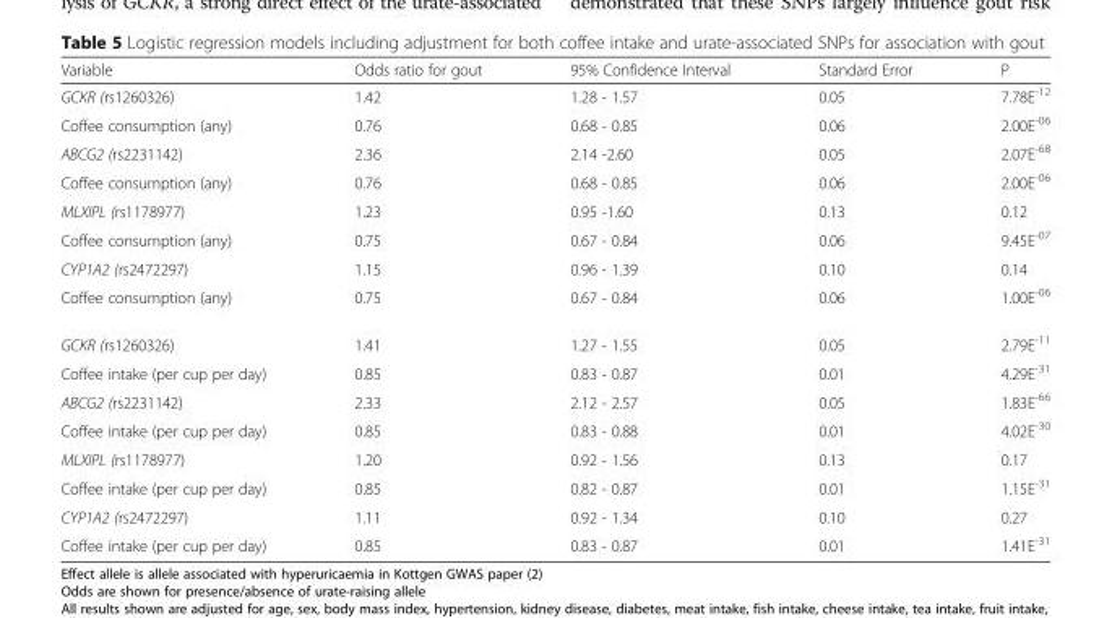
<table><thead><tr><td>Variable</td><td>Odds ratio for gout</td><td>95% Confidence Interval</td><td>Standard Error</td><td>P</td></tr></thead><tbody><tr><td>GCKR (rs1260326)</td><td>1.42</td><td>1.28 - 1.57</td><td>0.05</td><td>7.78E<sup>-12</sup></td></tr><tr><td>Coffee consumption (any)</td><td>0.76</td><td>0.68 - 0.85</td><td>0.06</td><td>2.00E<sup>-06</sup></td></tr><tr><td>ABCG2 (rs2231142)</td><td>2.36</td><td>2.14 -2.60</td><td>0.05</td><td>2.07E<sup>-68</sup></td></tr><tr><td>Coffee consumption (any)</td><td>0.76</td><td>0.68 - 0.85</td><td>0.06</td><td>2.00E<sup>-06</sup></td></tr><tr><td>MLXIPL (rs1178977)</td><td>1.23</td><td>0.95 -1.60</td><td>0.13</td><td>0.12</td></tr><tr><td>Coffee consumption (any)</td><td>0.75</td><td>0.67 - 0.84</td><td>0.06</td><td>9.45E<sup>-07</sup></td></tr><tr><td>CYP1A2 (rs2472297)</td><td>1.15</td><td>0.96 - 1.39</td><td>0.10</td><td>0.14</td></tr><tr><td>Coffee consumption (any)</td><td>0.75</td><td>0.67 - 0.84</td><td>0.06</td><td>1.00E<sup>-06</sup></td></tr><tr><td>GCKR (rs1260326)</td><td>1.41</td><td>1.27 - 1.55</td><td>0.05</td><td>2.79E<sup>-11</sup></td></tr><tr><td>Coffee intake (per cup per day)</td><td>0.85</td><td>0.83 - 0.87</td><td>0.01</td><td>4.29E<sup>-31</sup></td></tr><tr><td>ABCG2 (rs2231142)</td><td>2.33</td><td>2.12 - 2.57</td><td>0.05</td><td>1.83E<sup>-66</sup></td></tr><tr><td>Coffee intake (per cup per day)</td><td>0.85</td><td>0.83 - 0.88</td><td>0.01</td><td>4.02E<sup>-30</sup></td></tr><tr><td>MLXIPL (rs1178977)</td><td>1.20</td><td>0.92 - 1.56</td><td>0.13</td><td>0.17</td></tr><tr><td>Coffee intake (per cup per day)</td><td>0.85</td><td>0.82 - 0.87</td><td>0.01</td><td>1.15E<sup>-31</sup></td></tr><tr><td>CYP1A2 (rs2472297)</td><td>1.11</td><td>0.92 - 1.34</td><td>0.10</td><td>0.27</td></tr><tr><td>Coffee intake (per cup per day)</td><td>0.85</td><td>0.83 - 0.87</td><td>0.01</td><td>1.41E<sup>-31</sup></td></tr></tbody></table>